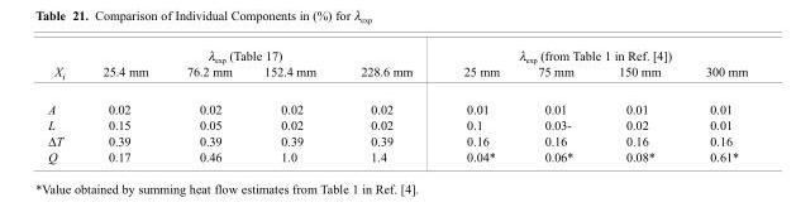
<table><thead><tr><td colspan="5">λ<sub>exp</sub> (Table 17)</td><td colspan="4">λ<sub>exp</sub> (from Table 1 in Ref. [4])</td></tr><tr><td>X<sub>i</sub></td><td>25.4 mm</td><td>76.2 mm</td><td>152.4 mm</td><td>228.6 mm</td><td>25 mm</td><td>75 mm</td><td>150 mm</td><td>300 mm</td></tr></thead><tbody><tr><td>A</td><td>0.02</td><td>0.02</td><td>0.02</td><td>0.02</td><td>0.01</td><td>0.01</td><td>0.01</td><td>0.01</td></tr><tr><td>L</td><td>0.15</td><td>0.05</td><td>0.02</td><td>0.02</td><td>0.1</td><td>0.03-</td><td>0.02</td><td>0.01</td></tr><tr><td>ΔT</td><td>0.39</td><td>0.39</td><td>0.39</td><td>0.39</td><td>0.16</td><td>0.16</td><td>0.16</td><td>0.16</td></tr><tr><td>Q</td><td>0.17</td><td>0.46</td><td>1.0</td><td>1.4</td><td>0.04*</td><td>0.06*</td><td>0.08*</td><td>0.61*</td></tr></tbody></table>